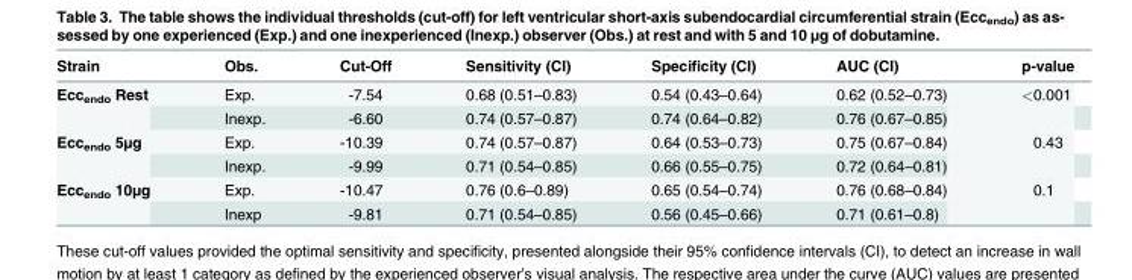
<table><thead><tr><td>Strain</td><td>Obs.</td><td>Cut-Off</td><td>Sensitivity (CI)</td><td>Specificity (CI)</td><td>AUC (CI)</td><td>p-value</td></tr></thead><tbody><tr><td rowspan="2">Ecc<sub>endo</sub> Rest</td><td>Exp.</td><td>-7.54</td><td>0.68 (0.51–0.83)</td><td>0.54 (0.43–0.64)</td><td>0.62 (0.52–0.73)</td><td rowspan="2">&lt;0.001</td></tr><tr><td>Inexp.</td><td>-6.60</td><td>0.74 (0.57–0.87)</td><td>0.74 (0.64–0.82)</td><td>0.76 (0.67–0.85)</td></tr><tr><td rowspan="2">Ecc<sub>endo</sub> 5µg</td><td>Exp.</td><td>-10.39</td><td>0.74 (0.57–0.87)</td><td>0.64 (0.53–0.73)</td><td>0.75 (0.67–0.84)</td><td rowspan="2">0.43</td></tr><tr><td>Inexp.</td><td>-9.99</td><td>0.71 (0.54–0.85)</td><td>0.66 (0.55–0.75)</td><td>0.72 (0.64–0.81)</td></tr><tr><td rowspan="2">Ecc<sub>endo</sub> 10µg</td><td>Exp.</td><td>-10.47</td><td>0.76 (0.6–0.89)</td><td>0.65 (0.54–0.74)</td><td>0.76 (0.68–0.84)</td><td rowspan="2">0.1</td></tr><tr><td>Inexp</td><td>-9.81</td><td>0.71 (0.54–0.85)</td><td>0.56 (0.45–0.66)</td><td>0.71 (0.61–0.8)</td></tr></tbody></table>